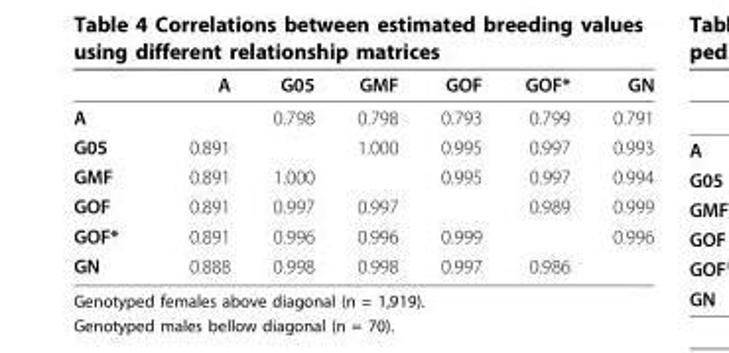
<table><thead><tr><td></td><td>A</td><td>G05</td><td>GMF</td><td>GOF</td><td>GOF*</td><td>GN</td></tr></thead><tbody><tr><td>A</td><td></td><td>0.798</td><td>0.798</td><td>0.793</td><td>0.799</td><td>0.791</td></tr><tr><td>G05</td><td>0.891</td><td></td><td>1.000</td><td>0.995</td><td>0.997</td><td>0.993</td></tr><tr><td>GMF</td><td>0.891</td><td>1.000</td><td></td><td>0.995</td><td>0.997</td><td>0.994</td></tr><tr><td>GOF</td><td>0.891</td><td>0.997</td><td>0.997</td><td></td><td>0.989</td><td>0.999</td></tr><tr><td>GOF*</td><td>0.891</td><td>0.996</td><td>0.996</td><td>0.999</td><td></td><td>0.996</td></tr><tr><td>GN</td><td>0.888</td><td>0.998</td><td>0.998</td><td>0.997</td><td>0.986</td><td></td></tr></tbody></table>